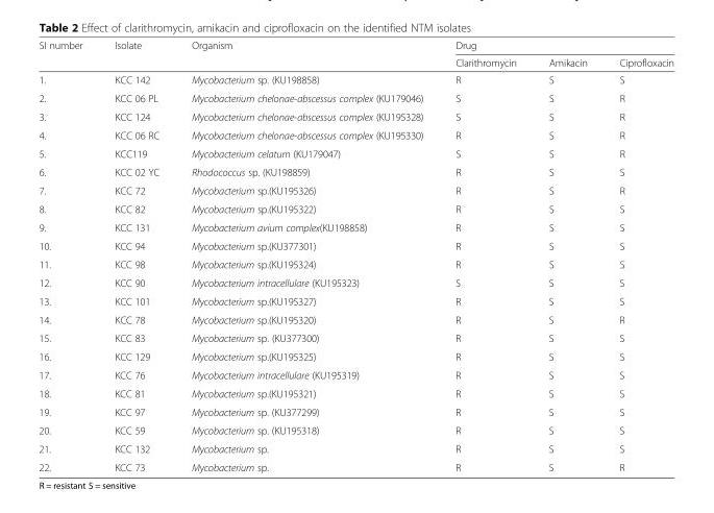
<table><thead><tr><td rowspan="2">SI number</td><td rowspan="2">Isolate</td><td rowspan="2">Organism</td><td colspan="3">Drug</td></tr><tr><td>Clarithromycin</td><td>Amikacin</td><td>Ciprofloxacin</td></tr></thead><tbody><tr><td>1.</td><td>KCC 142</td><td>Mycobacterium sp. (KU198858)</td><td>R</td><td>S</td><td>S</td></tr><tr><td>2.</td><td>KCC 06 PL</td><td>Mycobacterium chelonae-abscessus complex (KU179046)</td><td>S</td><td>S</td><td>R</td></tr><tr><td>3.</td><td>KCC 124</td><td>Mycobacterium chelonae-abscessus complex (KU195328)</td><td>S</td><td>S</td><td>R</td></tr><tr><td>4.</td><td>KCC 06 RC</td><td>Mycobacterium chelonae-abscessus complex (KU195330)</td><td>R</td><td>S</td><td>R</td></tr><tr><td>5.</td><td>KCC119</td><td>Mycobacterium celatum (KU179047)</td><td>S</td><td>S</td><td>R</td></tr><tr><td>6.</td><td>KCC 02 YC</td><td>Rhodococcus sp. (KU198859)</td><td>R</td><td>S</td><td>S</td></tr><tr><td>7.</td><td>KCC 72</td><td>Mycobacterium sp.(KU195326)</td><td>R</td><td>S</td><td>R</td></tr><tr><td>8.</td><td>KCC 82</td><td>Mycobacterium sp.(KU195322)</td><td>R</td><td>S</td><td>S</td></tr><tr><td>9.</td><td>KCC 131</td><td>Mycobacterium avium complex(KU198858)</td><td>R</td><td>S</td><td>S</td></tr><tr><td>10.</td><td>KCC 94</td><td>Mycobacterium sp.(KU377301)</td><td>R</td><td>S</td><td>S</td></tr><tr><td>11.</td><td>KCC 98</td><td>Mycobacterium sp.(KU195324)</td><td>R</td><td>S</td><td>S</td></tr><tr><td>12.</td><td>KCC 90</td><td>Mycobacterium intracellulare (KU195323)</td><td>S</td><td>S</td><td>S</td></tr><tr><td>13.</td><td>KCC 101</td><td>Mycobacterium sp.(KU195327)</td><td>R</td><td>S</td><td>S</td></tr><tr><td>14.</td><td>KCC 78</td><td>Mycobacterium sp.(KU195320)</td><td>R</td><td>S</td><td>R</td></tr><tr><td>15.</td><td>KCC 83</td><td>Mycobacterium sp. (KU377300)</td><td>R</td><td>S</td><td>S</td></tr><tr><td>16.</td><td>KCC 129</td><td>Mycobacterium sp.(KU195325)</td><td>R</td><td>S</td><td>S</td></tr><tr><td>17.</td><td>KCC 76</td><td>Mycobacterium intracellulare (KU195319)</td><td>R</td><td>S</td><td>S</td></tr><tr><td>18.</td><td>KCC 81</td><td>Mycobacterium sp.(KU195321)</td><td>R</td><td>S</td><td>S</td></tr><tr><td>19.</td><td>KCC 97</td><td>Mycobacterium sp. (KU377299)</td><td>R</td><td>S</td><td>S</td></tr><tr><td>20.</td><td>KCC 59</td><td>Mycobacterium sp. (KU195318)</td><td>R</td><td>S</td><td>S</td></tr><tr><td>21.</td><td>KCC 132</td><td>Mycobacterium sp.</td><td>R</td><td>S</td><td>S</td></tr><tr><td>22.</td><td>KCC 73</td><td>Mycobacterium sp.</td><td>R</td><td>S</td><td>R</td></tr></tbody></table>